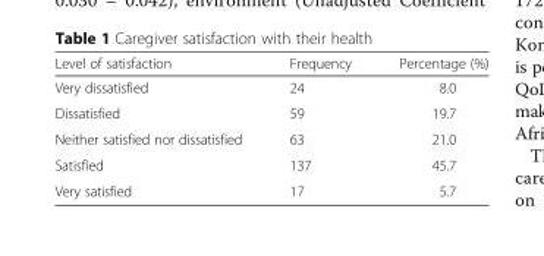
<table><thead><tr><td>Level of satisfaction</td><td>Frequency</td><td>Percentage (%)</td></tr></thead><tbody><tr><td>Very dissatisfied</td><td>24</td><td>8.0</td></tr><tr><td>Dissatisfied</td><td>59</td><td>19.7</td></tr><tr><td>Neither satisfied nor dissatisfied</td><td>63</td><td>21.0</td></tr><tr><td>Satisfied</td><td>137</td><td>45.7</td></tr><tr><td>Very satisfied</td><td>17</td><td>5.7</td></tr></tbody></table>